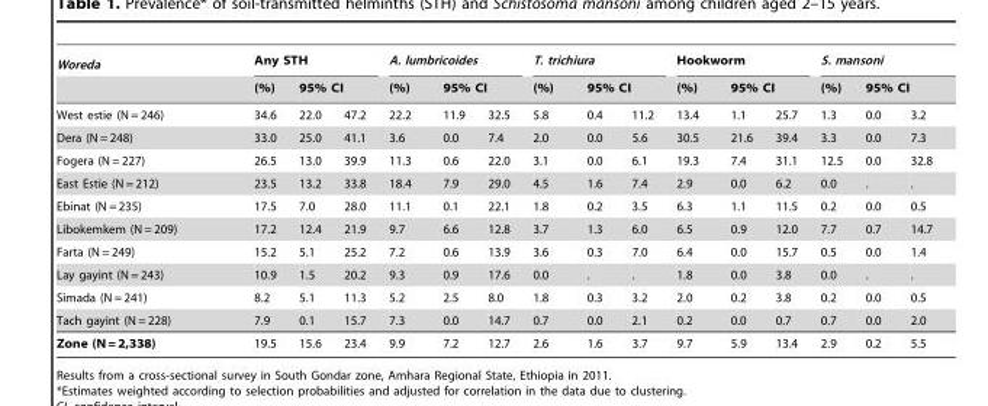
<table><thead><tr><td rowspan="3">Woreda West estie (N = 246)</td><td colspan="3">Any STH</td><td colspan="3">A. lumbricoides</td><td colspan="3">T. trichiura</td><td colspan="3">Hookworm</td><td colspan="3">S. mansoni</td></tr><tr><td rowspan="2">(%) 34.6</td><td colspan="2">95% CI</td><td rowspan="2">(%) 22.2</td><td colspan="2">95% CI</td><td rowspan="2">(%) 5.8</td><td colspan="2">95% CI</td><td rowspan="2">(%) 13.4</td><td colspan="2">95% CI</td><td rowspan="2">(%) 1.3</td><td colspan="2">95% CI</td></tr><tr><td>22.0</td><td>47.2</td><td>11.9</td><td>32.5</td><td>0.4</td><td>11.2</td><td>1.1</td><td>25.7</td><td>0.0</td><td>3.2</td></tr></thead><tbody><tr><td>Dera (N = 248)</td><td>33.0</td><td>25.0</td><td>41.1</td><td>3.6</td><td>0.0</td><td>7.4</td><td>2.0</td><td>0.0</td><td>5.6</td><td>30.5</td><td>21.6</td><td>39.4</td><td>3.3</td><td>0.0</td><td>7.3</td></tr><tr><td>Fogera (N = 227)</td><td>26.5</td><td>13.0</td><td>39.9</td><td>11.3</td><td>0.6</td><td>22.0</td><td>3.1</td><td>0.0</td><td>6.1</td><td>19.3</td><td>7.4</td><td>31.1</td><td>12.5</td><td>0.0</td><td>32.8</td></tr><tr><td>East Estie (N = 212)</td><td>23.5</td><td>13.2</td><td>33.8</td><td>18.4</td><td>7.9</td><td>29.0</td><td>4.5</td><td>1.6</td><td>7.4</td><td>2.9</td><td>0.0</td><td>6.2</td><td>0.0</td><td>.</td><td>.</td></tr><tr><td>Ebinat (N = 235)</td><td>17.5</td><td>7.0</td><td>28.0</td><td>11.1</td><td>0.1</td><td>22.1</td><td>1.8</td><td>0.2</td><td>3.5</td><td>6.3</td><td>1.1</td><td>11.5</td><td>0.2</td><td>0.0</td><td>0.5</td></tr><tr><td>Libokemkem (N = 209)</td><td>17.2</td><td>12.4</td><td>21.9</td><td>9.7</td><td>6.6</td><td>12.8</td><td>3.7</td><td>1.3</td><td>6.0</td><td>6.5</td><td>0.9</td><td>12.0</td><td>7.7</td><td>0.7</td><td>14.7</td></tr><tr><td>Farta (N = 249)</td><td>15.2</td><td>5.1</td><td>25.2</td><td>7.2</td><td>0.6</td><td>13.9</td><td>3.6</td><td>0.3</td><td>7.0</td><td>6.4</td><td>0.0</td><td>15.7</td><td>0.5</td><td>0.0</td><td>1.4</td></tr><tr><td>Lay gayint (N = 243)</td><td>10.9</td><td>1.5</td><td>20.2</td><td>9.3</td><td>0.9</td><td>17.6</td><td>0.0</td><td>.</td><td>.</td><td>1.8</td><td>0.0</td><td>3.8</td><td>0.0</td><td>.</td><td>.</td></tr><tr><td>Simada (N = 241)</td><td>8.2</td><td>5.1</td><td>11.3</td><td>5.2</td><td>2.5</td><td>8.0</td><td>1.8</td><td>0.3</td><td>3.2</td><td>2.0</td><td>0.2</td><td>3.8</td><td>0.2</td><td>0.0</td><td>0.5</td></tr><tr><td>Tach gayint (N = 228)</td><td>7.9</td><td>0.1</td><td>15.7</td><td>7.3</td><td>0.0</td><td>14.7</td><td>0.7</td><td>0.0</td><td>2.1</td><td>0.2</td><td>0.0</td><td>0.7</td><td>0.7</td><td>0.0</td><td>2.0</td></tr><tr><td>Zone (N = 2,338)</td><td>19.5</td><td>15.6</td><td>23.4</td><td>9.9</td><td>7.2</td><td>12.7</td><td>2.6</td><td>1.6</td><td>3.7</td><td>9.7</td><td>5.9</td><td>13.4</td><td>2.9</td><td>0.2</td><td>5.5</td></tr></tbody></table>